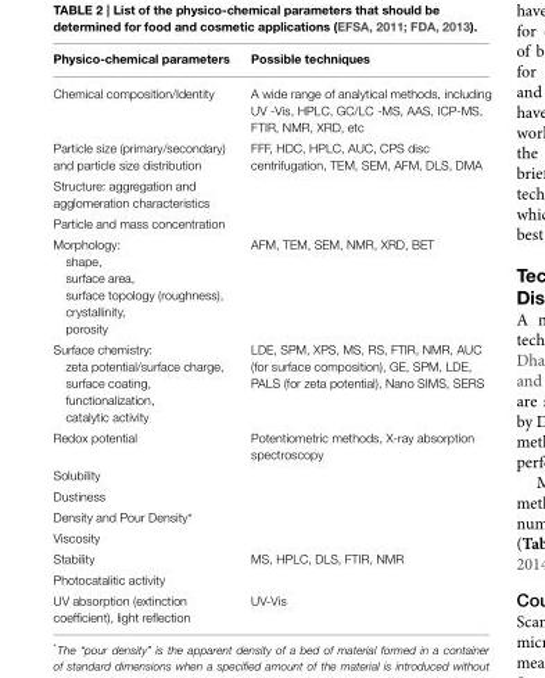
<table><thead><tr><td>Physico-chemical parameters</td><td>Possible techniques</td></tr></thead><tbody><tr><td>Chemical composition/Identity</td><td>A wide range of analytical methods, including UV -Vis, HPLC, GC/LC -MS, AAS, ICP-MS, FTIR, NMR, XRD, etc</td></tr><tr><td>Particle size (primary/secondary) and particle size distribution</td><td>FFF, HDC, HPLC, AUC, CPS disc centrifugation, TEM, SEM, AFM, DLS, DMA</td></tr><tr><td colspan="2">Structure: aggregation and agglomeration characteristics</td></tr><tr><td colspan="2">Particle and mass concentration</td></tr><tr><td>Morphology: shape, surface area, surface topology (roughness), crystallinity, porosity</td><td>AFM, TEM, SEM, NMR, XRD, BET</td></tr><tr><td>Surface chemistry: zeta potential/surface charge, surface coating, functionalization, catalytic activity</td><td>LDE, SPM, XPS, MS, RS, FTIR, NMR, AUC (for surface composition), GE, SPM, LDE, PALS (for zeta potential), Nano SIMS, SERS</td></tr><tr><td>Redox potential</td><td>Potentiometric methods, X-ray absorption spectroscopy</td></tr><tr><td colspan="2">Solubility</td></tr><tr><td colspan="2">Dustiness</td></tr><tr><td colspan="2">Density and Pour Density*</td></tr><tr><td colspan="2">Viscosity</td></tr><tr><td>Stability</td><td>MS, HPLC, DLS, FTIR, NMR</td></tr><tr><td colspan="2">Photocatalitic activity</td></tr><tr><td>UV absorption (extinction coefficient), light reflection</td><td>UV-Vis</td></tr></tbody></table>